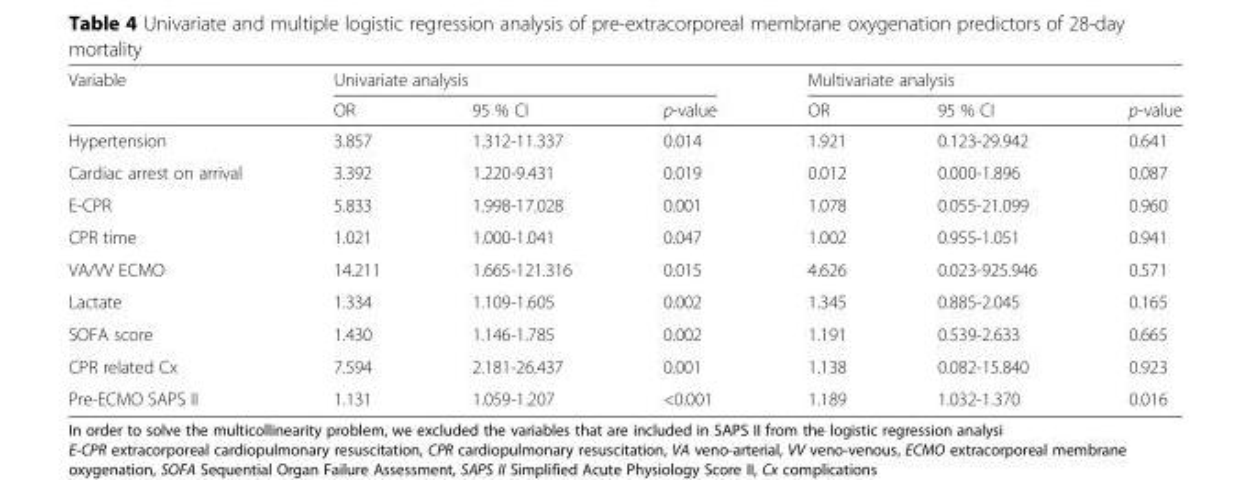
<table><thead><tr><td rowspan="2">Variable</td><td colspan="3">Univariate analysis</td><td colspan="3">Multivariate analysis</td></tr><tr><td>OR</td><td>95 % CI</td><td>p-value</td><td>OR</td><td>95 % CI</td><td>p-value</td></tr></thead><tbody><tr><td>Hypertension</td><td>3.857</td><td>1.312-11.337</td><td>0.014</td><td>1.921</td><td>0.123-29.942</td><td>0.641</td></tr><tr><td>Cardiac arrest on arrival</td><td>3.392</td><td>1.220-9.431</td><td>0.019</td><td>0.012</td><td>0.000-1.896</td><td>0.087</td></tr><tr><td>E-CPR</td><td>5.833</td><td>1.998-17.028</td><td>0.001</td><td>1.078</td><td>0.055-21.099</td><td>0.960</td></tr><tr><td>CPR time</td><td>1.021</td><td>1.000-1.041</td><td>0.047</td><td>1.002</td><td>0.955-1.051</td><td>0.941</td></tr><tr><td>VA/VV ECMO</td><td>14.211</td><td>1.665-121.316</td><td>0.015</td><td>4.626</td><td>0.023-925.946</td><td>0.571</td></tr><tr><td>Lactate</td><td>1.334</td><td>1.109-1.605</td><td>0.002</td><td>1.345</td><td>0.885-2.045</td><td>0.165</td></tr><tr><td>SOFA score</td><td>1.430</td><td>1.146-1.785</td><td>0.002</td><td>1.191</td><td>0.539-2.633</td><td>0.665</td></tr><tr><td>CPR related Cx</td><td>7.594</td><td>2.181-26.437</td><td>0.001</td><td>1.138</td><td>0.082-15.840</td><td>0.923</td></tr><tr><td>Pre-ECMO SAPS II</td><td>1.131</td><td>1.059-1.207</td><td>&lt;0.001</td><td>1.189</td><td>1.032-1.370</td><td>0.016</td></tr></tbody></table>